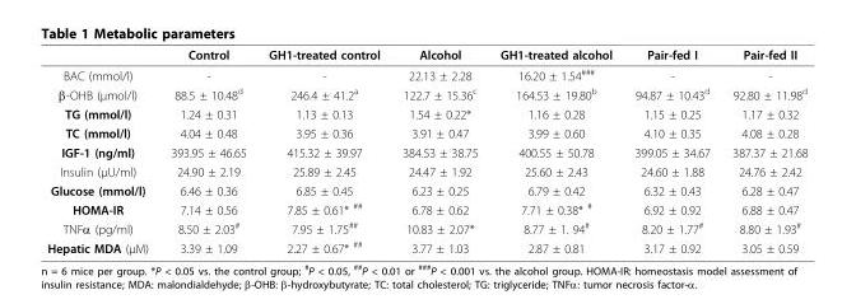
<table><thead><tr><td></td><td>Control</td><td>GH1-treated control</td><td>Alcohol</td><td>GH1-treated alcohol</td><td>Pair-fed I</td><td>Pair-fed II</td></tr></thead><tbody><tr><td>BAC (mmol/l)</td><td>-</td><td>-</td><td>22.13 ± 2.28</td><td>16.20 ± 1.54<sup>###</sup></td><td>-</td><td>-</td></tr><tr><td>β-OHB (μmol/l)</td><td>88.5 ± 10.48<sup>d</sup></td><td>246.4 ± 41.2<sup>a</sup></td><td>122.7 ± 15.36<sup>c</sup></td><td>164.53 ± 19.80<sup>b</sup></td><td>94.87 ± 10.43<sup>d</sup></td><td>92.80 ± 11.98<sup>d</sup></td></tr><tr><td>TG (mmol/l)</td><td>1.24 ± 0.31</td><td>1.13 ± 0.13</td><td>1.54 ± 0.22*</td><td>1.16 ± 0.28</td><td>1.15 ± 0.25</td><td>1.17 ± 0.32</td></tr><tr><td>TC (mmol/l)</td><td>4.04 ± 0.48</td><td>3.95 ± 0.36</td><td>3.91 ± 0.47</td><td>3.99 ± 0.60</td><td>4.10 ± 0.35</td><td>4.08 ± 0.28</td></tr><tr><td>IGF-1 (ng/ml)</td><td>393.95 ± 46.65</td><td>415.32 ± 39.97</td><td>384.53 ± 38.75</td><td>400.55 ± 50.78</td><td>399.05 ± 34.67</td><td>387.37 ± 21.68</td></tr><tr><td>Insulin (μU/ml)</td><td>24.90 ± 2.19</td><td>25.89 ± 2.45</td><td>24.47 ± 1.92</td><td>25.60 ± 2.43</td><td>24.60 ± 1.88</td><td>24.76 ± 2.42</td></tr><tr><td>Glucose (mmol/l)</td><td>6.46 ± 0.36</td><td>6.85 ± 0.45</td><td>6.23 ± 0.25</td><td>6.79 ± 0.42</td><td>6.32 ± 0.43</td><td>6.28 ± 0.47</td></tr><tr><td>HOMA-IR</td><td>7.14 ± 0.56</td><td>7.85 ± 0.61* <sup>##</sup></td><td>6.78 ± 0.62</td><td>7.71 ± 0.38* <sup>#</sup></td><td>6.92 ± 0.92</td><td>6.88 ± 0.47</td></tr><tr><td>TNFα (pg/ml)</td><td>8.50 ± 2.03<sup>#</sup></td><td>7.95 ± 1.75<sup>##</sup></td><td>10.83 ± 2.07*</td><td>8.77 ± 1. 94<sup>#</sup></td><td>8.20 ± 1.77<sup>#</sup></td><td>8.80 ± 1.93<sup>#</sup></td></tr><tr><td>Hepatic MDA (μM)</td><td>3.39 ± 1.09</td><td>2.27 ± 0.67* <sup>##</sup></td><td>3.77 ± 1.03</td><td>2.87 ± 0.81</td><td>3.17 ± 0.92</td><td>3.05 ± 0.59</td></tr></tbody></table>